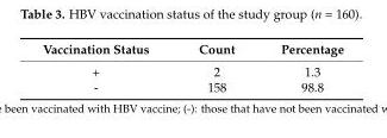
<table><thead><tr><td>Vaccination Status</td><td>Count</td><td>Percentage</td></tr></thead><tbody><tr><td>+</td><td>2</td><td>1.3</td></tr><tr><td>-</td><td>158</td><td>98.8</td></tr></tbody></table>